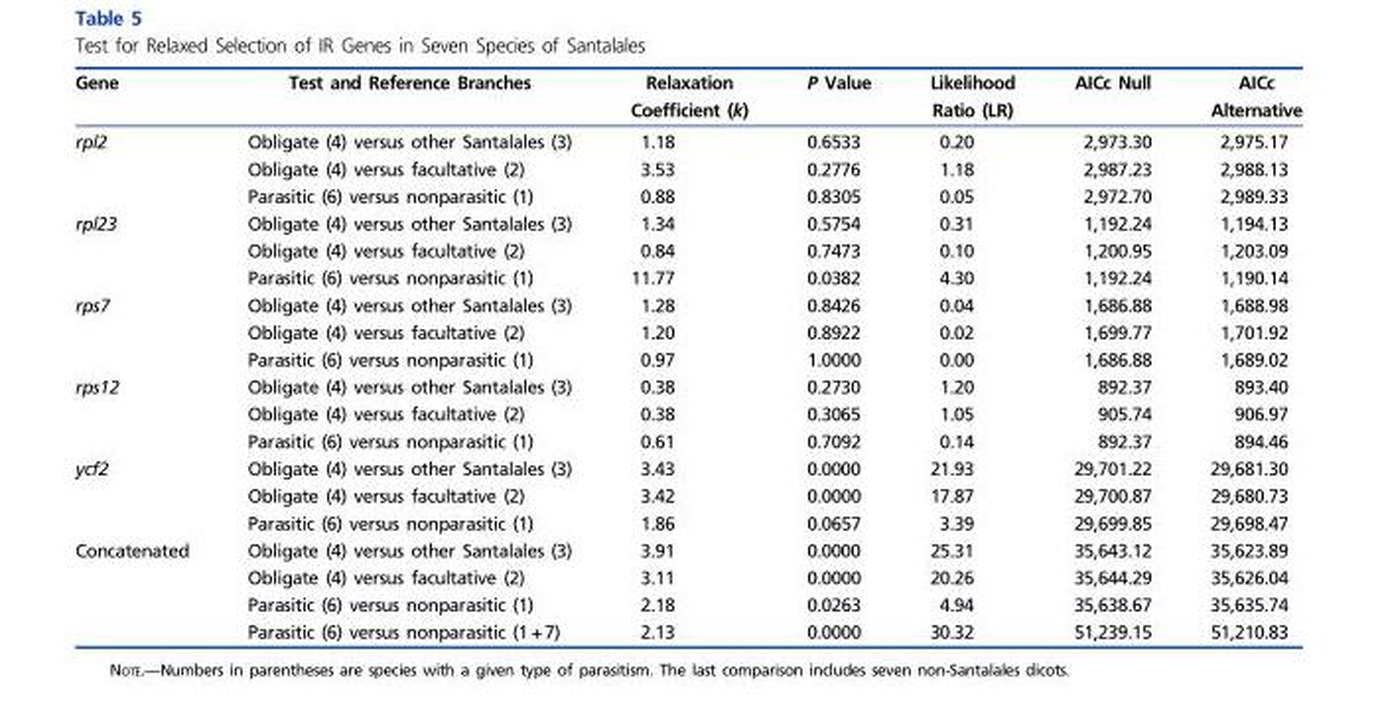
<table><thead><tr><td>Gene</td><td>Test and Reference Branches</td><td>Relaxation Coefficient (k)</td><td>P Value</td><td>Likelihood Ratio (LR)</td><td>AICc Null</td><td>AICc Alternative</td></tr></thead><tbody><tr><td rowspan="3">rpl2</td><td>Obligate (4) versus other Santalales (3)</td><td>1.18</td><td>0.6533</td><td>0.20</td><td>2,973.30</td><td>2,975.17</td></tr><tr><td>Obligate (4) versus facultative (2)</td><td>3.53</td><td>0.2776</td><td>1.18</td><td>2,987.23</td><td>2,988.13</td></tr><tr><td>Parasitic (6) versus nonparasitic (1)</td><td>0.88</td><td>0.8305</td><td>0.05</td><td>2,972.70</td><td>2,989.33</td></tr><tr><td rowspan="3">rpl23</td><td>Obligate (4) versus other Santalales (3)</td><td>1.34</td><td>0.5754</td><td>0.31</td><td>1,192.24</td><td>1,194.13</td></tr><tr><td>Obligate (4) versus facultative (2)</td><td>0.84</td><td>0.7473</td><td>0.10</td><td>1,200.95</td><td>1,203.09</td></tr><tr><td>Parasitic (6) versus nonparasitic (1)</td><td>11.77</td><td>0.0382</td><td>4.30</td><td>1,192.24</td><td>1,190.14</td></tr><tr><td rowspan="3">rps7</td><td>Obligate (4) versus other Santalales (3)</td><td>1.28</td><td>0.8426</td><td>0.04</td><td>1,686.88</td><td>1,688.98</td></tr><tr><td>Obligate (4) versus facultative (2)</td><td>1.20</td><td>0.8922</td><td>0.02</td><td>1,699.77</td><td>1,701.92</td></tr><tr><td>Parasitic (6) versus nonparasitic (1)</td><td>0.97</td><td>1.0000</td><td>0.00</td><td>1,686.88</td><td>1,689.02</td></tr><tr><td rowspan="3">rps12</td><td>Obligate (4) versus other Santalales (3)</td><td>0.38</td><td>0.2730</td><td>1.20</td><td>892.37</td><td>893.40</td></tr><tr><td>Obligate (4) versus facultative (2)</td><td>0.38</td><td>0.3065</td><td>1.05</td><td>905.74</td><td>906.97</td></tr><tr><td>Parasitic (6) versus nonparasitic (1)</td><td>0.61</td><td>0.7092</td><td>0.14</td><td>892.37</td><td>894.46</td></tr><tr><td rowspan="3">ycf2</td><td>Obligate (4) versus other Santalales (3)</td><td>3.43</td><td>0.0000</td><td>21.93</td><td>29,701.22</td><td>29,681.30</td></tr><tr><td>Obligate (4) versus facultative (2)</td><td>3.42</td><td>0.0000</td><td>17.87</td><td>29,700.87</td><td>29,680.73</td></tr><tr><td>Parasitic (6) versus nonparasitic (1)</td><td>1.86</td><td>0.0657</td><td>3.39</td><td>29,699.85</td><td>29,698.47</td></tr><tr><td rowspan="4">Concatenated</td><td>Obligate (4) versus other Santalales (3)</td><td>3.91</td><td>0.0000</td><td>25.31</td><td>35,643.12</td><td>35,623.89</td></tr><tr><td>Obligate (4) versus facultative (2)</td><td>3.11</td><td>0.0000</td><td>20.26</td><td>35,644.29</td><td>35,626.04</td></tr><tr><td>Parasitic (6) versus nonparasitic (1)</td><td>2.18</td><td>0.0263</td><td>4.94</td><td>35,638.67</td><td>35,635.74</td></tr><tr><td>Parasitic (6) versus nonparasitic (1+7)</td><td>2.13</td><td>0.0000</td><td>30.32</td><td>51,239.15</td><td>51,210.83</td></tr></tbody></table>